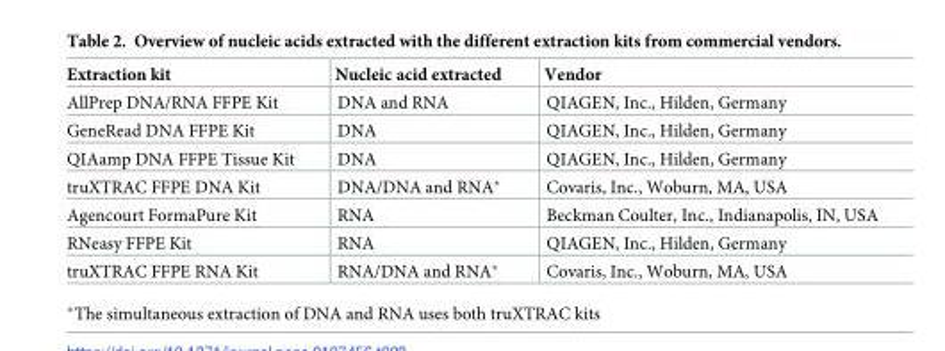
<table><thead><tr><td>Extraction kit</td><td>Nucleic acid extracted</td><td>Vendor</td></tr></thead><tbody><tr><td>AllPrep DNA/RNA FFPE Kit</td><td>DNA and RNA</td><td>QIAGEN, Inc., Hilden, Germany</td></tr><tr><td>GeneRead DNA FFPE Kit</td><td>DNA</td><td>QIAGEN, Inc., Hilden, Germany</td></tr><tr><td>QIAamp DNA FFPE Tissue Kit</td><td>DNA</td><td>QIAGEN, Inc., Hilden, Germany</td></tr><tr><td>truXTRAC FFPE DNA Kit</td><td>DNA/DNA and RNA*</td><td>Covaris, Inc., Woburn, MA, USA</td></tr><tr><td>Agencourt FormaPure Kit</td><td>RNA</td><td>Beckman Coulter, Inc., Indianapolis, IN, USA</td></tr><tr><td>RNeasy FFPE Kit</td><td>RNA</td><td>QIAGEN, Inc., Hilden, Germany</td></tr><tr><td>truXTRAC FFPE RNA Kit</td><td>RNA/DNA and RNA*</td><td>Covaris, Inc., Woburn, MA, USA</td></tr></tbody></table>